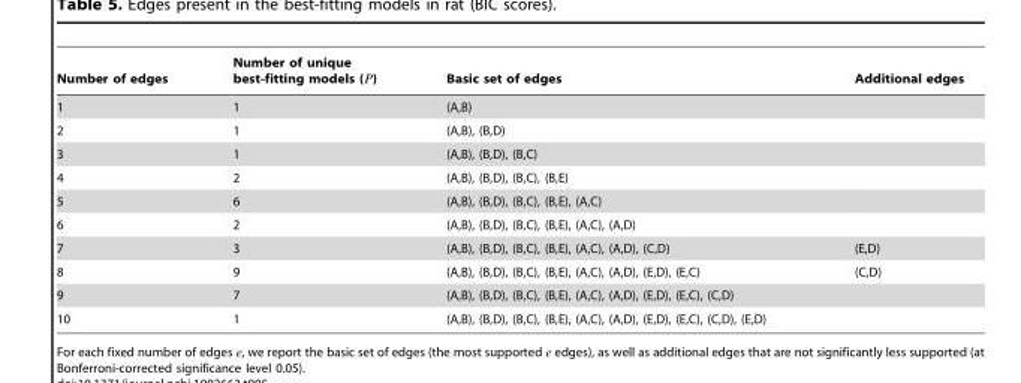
<table><thead><tr><td>Number of edges</td><td>Number of unique best-fitting models (P)</td><td>Basic set of edges</td><td>Additional edges</td></tr></thead><tbody><tr><td>1</td><td>1</td><td>(A,B)</td><td></td></tr><tr><td>2</td><td>1</td><td>(A,B), (B,D)</td><td></td></tr><tr><td>3</td><td>1</td><td>(A,B), (B,D), (B,C)</td><td></td></tr><tr><td>4</td><td>2</td><td>(A,B), (B,D), (B,C), (B,E)</td><td></td></tr><tr><td>5</td><td>6</td><td>(A,B), (B,D), (B,C), (B,E), (A,C)</td><td></td></tr><tr><td>6</td><td>2</td><td>(A,B), (B,D), (B,C), (B,E), (A,C), (A,D)</td><td></td></tr><tr><td>7</td><td>3</td><td>(A,B), (B,D), (B,C), (B,E), (A,C), (A,D), (C,D)</td><td>(E,D)</td></tr><tr><td>8</td><td>9</td><td>(A,B), (B,D), (B,C), (B,E), (A,C), (A,D), (E,D), (E,C)</td><td>(C,D)</td></tr><tr><td>9</td><td>7</td><td>(A,B), (B,D), (B,C), (B,E), (A,C), (A,D), (E,D), (E,C), (C,D)</td><td></td></tr><tr><td>10</td><td>1</td><td>(A,B), (B,D), (B,C), (B,E), (A,C), (A,D), (E,D), (E,C), (C,D), (E,D)</td><td></td></tr></tbody></table>